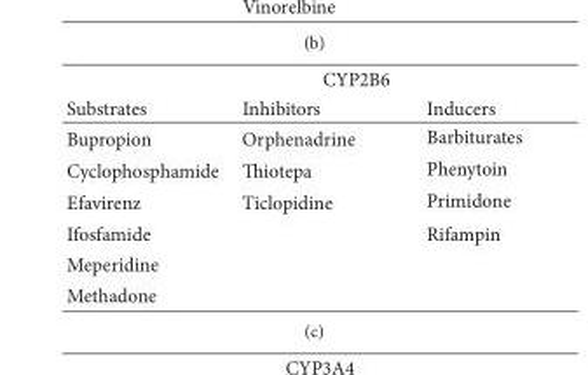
<table><thead><tr><td colspan="3">CYP2B6</td></tr><tr><td>Substrates</td><td>Inhibitors</td><td>Inducers</td></tr></thead><tbody><tr><td>Bupropion</td><td>Orphenadrine</td><td>Barbiturates</td></tr><tr><td>Cyclophosphamide</td><td>Thiotepa</td><td>Phenytoin</td></tr><tr><td>Efavirenz</td><td>Ticlopidine</td><td>Primidone</td></tr><tr><td>Ifosfamide</td><td></td><td>Rifampin</td></tr><tr><td colspan="3">Meperidine</td></tr><tr><td>Methadone</td><td></td><td></td></tr></tbody></table>